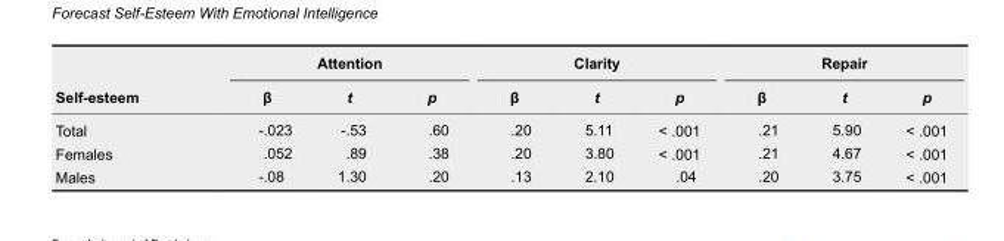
<table><thead><tr><td rowspan="2">Self-esteem</td><td colspan="3">Attention</td><td colspan="3">Clarity</td><td colspan="3">Repair</td></tr><tr><td>β</td><td>t</td><td>p</td><td>β</td><td>t</td><td>p</td><td>β</td><td>t</td><td>p</td></tr></thead><tbody><tr><td>Total</td><td>-.023</td><td>-.53</td><td>.60</td><td>.20</td><td>5.11</td><td>&lt; .001</td><td>.21</td><td>5.90</td><td>&lt; .001</td></tr><tr><td>Females</td><td>.052</td><td>.89</td><td>.38</td><td>.20</td><td>3.80</td><td>&lt; .001</td><td>.21</td><td>4.67</td><td>&lt; .001</td></tr><tr><td>Males</td><td>-.08</td><td>1.30</td><td>.20</td><td>.13</td><td>2.10</td><td>.04</td><td>.20</td><td>3.75</td><td>&lt; .001</td></tr></tbody></table>